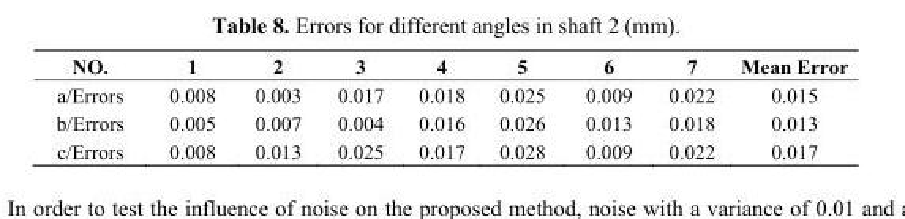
<table><thead><tr><td>NO.</td><td>1</td><td>2</td><td>3</td><td>4</td><td>5</td><td>6</td><td>7</td><td>Mean Error</td></tr></thead><tbody><tr><td>a/Errors</td><td>0.008</td><td>0.003</td><td>0.017</td><td>0.018</td><td>0.025</td><td>0.009</td><td>0.022</td><td>0.015</td></tr><tr><td>b/Errors</td><td>0.005</td><td>0.007</td><td>0.004</td><td>0.016</td><td>0.026</td><td>0.013</td><td>0.018</td><td>0.013</td></tr><tr><td>c/Errors</td><td>0.008</td><td>0.013</td><td>0.025</td><td>0.017</td><td>0.028</td><td>0.009</td><td>0.022</td><td>0.017</td></tr></tbody></table>